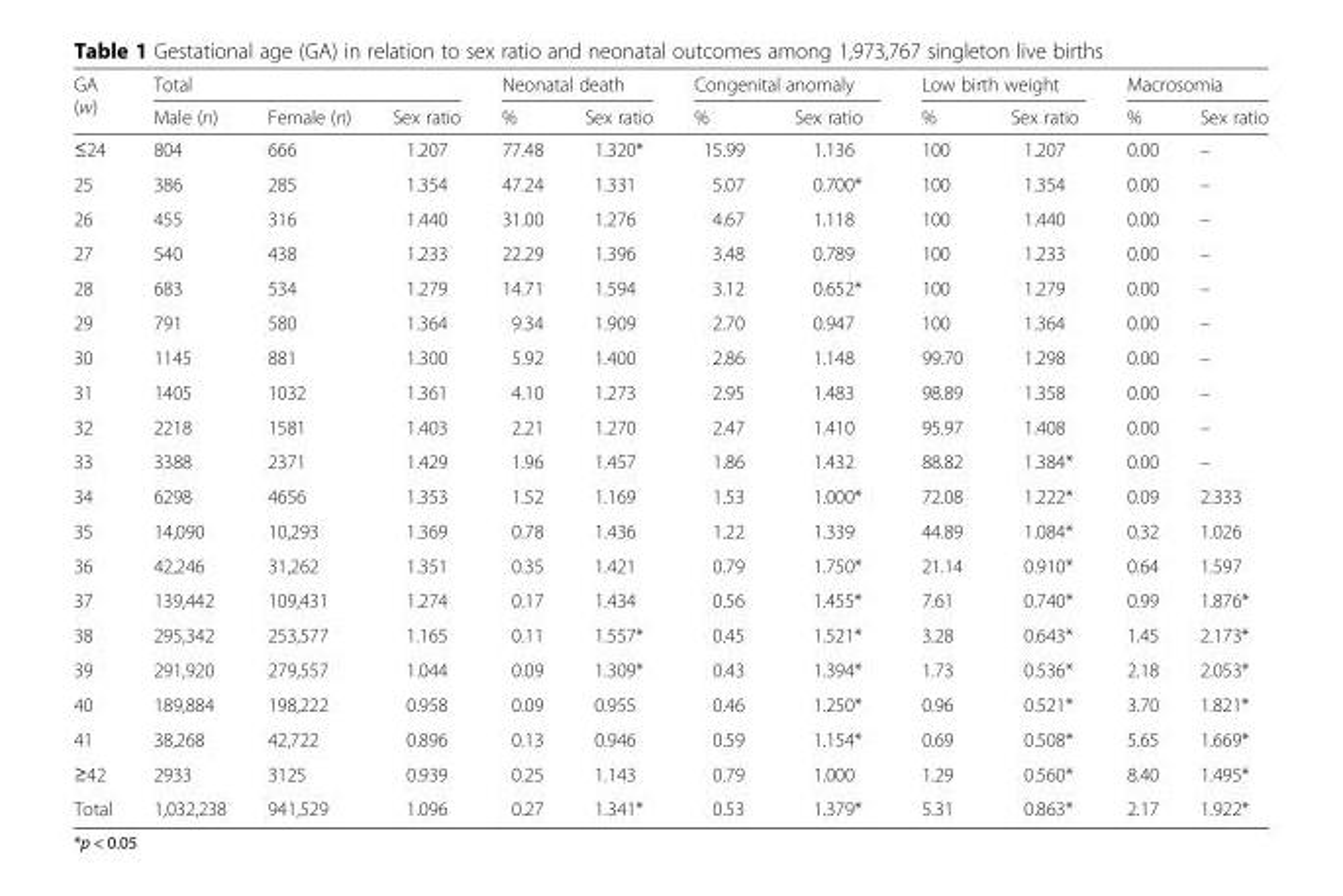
<table><thead><tr><td rowspan="2">GA (w)</td><td colspan="3">Total</td><td colspan="2">Neonatal death</td><td colspan="2">Congenital anomaly</td><td colspan="2">Low birth weight</td><td colspan="2">Macrosomia</td></tr><tr><td>Male (n)</td><td>Female (n)</td><td>Sex ratio</td><td>%</td><td>Sex ratio</td><td>%</td><td>Sex ratio</td><td>%</td><td>Sex ratio</td><td>%</td><td>Sex ratio</td></tr></thead><tbody><tr><td>≤24</td><td>804</td><td>666</td><td>1.207</td><td>77.48</td><td>1.320*</td><td>15.99</td><td>1.136</td><td>100</td><td>1.207</td><td>0.00</td><td>–</td></tr><tr><td>25</td><td>386</td><td>285</td><td>1.354</td><td>47.24</td><td>1.331</td><td>5.07</td><td>0.700*</td><td>100</td><td>1.354</td><td>0.00</td><td>–</td></tr><tr><td>26</td><td>455</td><td>316</td><td>1.440</td><td>31.00</td><td>1.276</td><td>4.67</td><td>1.118</td><td>100</td><td>1.440</td><td>0.00</td><td>–</td></tr><tr><td>27</td><td>540</td><td>438</td><td>1.233</td><td>22.29</td><td>1.396</td><td>3.48</td><td>0.789</td><td>100</td><td>1.233</td><td>0.00</td><td>–</td></tr><tr><td>28</td><td>683</td><td>534</td><td>1.279</td><td>14.71</td><td>1.594</td><td>3.12</td><td>0.652*</td><td>100</td><td>1.279</td><td>0.00</td><td>–</td></tr><tr><td>29</td><td>791</td><td>580</td><td>1.364</td><td>9.34</td><td>1.909</td><td>2.70</td><td>0.947</td><td>100</td><td>1.364</td><td>0.00</td><td>–</td></tr><tr><td>30</td><td>1145</td><td>881</td><td>1.300</td><td>5.92</td><td>1.400</td><td>2.86</td><td>1.148</td><td>99.70</td><td>1.298</td><td>0.00</td><td>–</td></tr><tr><td>31</td><td>1405</td><td>1032</td><td>1.361</td><td>4.10</td><td>1.273</td><td>2.95</td><td>1.483</td><td>98.89</td><td>1.358</td><td>0.00</td><td>–</td></tr><tr><td>32</td><td>2218</td><td>1581</td><td>1.403</td><td>2.21</td><td>1.270</td><td>2.47</td><td>1.410</td><td>95.97</td><td>1.408</td><td>0.00</td><td>–</td></tr><tr><td>33</td><td>3388</td><td>2371</td><td>1.429</td><td>1.96</td><td>1.457</td><td>1.86</td><td>1.432</td><td>88.82</td><td>1.384*</td><td>0.00</td><td>–</td></tr><tr><td>34</td><td>6298</td><td>4656</td><td>1.353</td><td>1.52</td><td>1.169</td><td>1.53</td><td>1.000*</td><td>72.08</td><td>1.222*</td><td>0.09</td><td>2.333</td></tr><tr><td>35</td><td>14,090</td><td>10,293</td><td>1.369</td><td>0.78</td><td>1.436</td><td>1.22</td><td>1.339</td><td>44.89</td><td>1.084*</td><td>0.32</td><td>1.026</td></tr><tr><td>36</td><td>42,246</td><td>31,262</td><td>1.351</td><td>0.35</td><td>1.421</td><td>0.79</td><td>1.750*</td><td>21.14</td><td>0.910*</td><td>0.64</td><td>1.597</td></tr><tr><td>37</td><td>139,442</td><td>109,431</td><td>1.274</td><td>0.17</td><td>1.434</td><td>0.56</td><td>1.455*</td><td>7.61</td><td>0.740*</td><td>0.99</td><td>1.876*</td></tr><tr><td>38</td><td>295,342</td><td>253,577</td><td>1.165</td><td>0.11</td><td>1.557*</td><td>0.45</td><td>1.521*</td><td>3.28</td><td>0.643*</td><td>1.45</td><td>2.173*</td></tr><tr><td>39</td><td>291,920</td><td>279,557</td><td>1.044</td><td>0.09</td><td>1.309*</td><td>0.43</td><td>1.394*</td><td>1.73</td><td>0.536*</td><td>2.18</td><td>2.053*</td></tr><tr><td>40</td><td>189,884</td><td>198,222</td><td>0.958</td><td>0.09</td><td>0.955</td><td>0.46</td><td>1.250*</td><td>0.96</td><td>0.521*</td><td>3.70</td><td>1.821*</td></tr><tr><td>41</td><td>38,268</td><td>42,722</td><td>0.896</td><td>0.13</td><td>0.946</td><td>0.59</td><td>1.154*</td><td>0.69</td><td>0.508*</td><td>5.65</td><td>1.669*</td></tr><tr><td>≥42</td><td>2933</td><td>3125</td><td>0.939</td><td>0.25</td><td>1.143</td><td>0.79</td><td>1.000</td><td>1.29</td><td>0.560*</td><td>8.40</td><td>1.495*</td></tr><tr><td>Total</td><td>1,032,238</td><td>941,529</td><td>1.096</td><td>0.27</td><td>1.341*</td><td>0.53</td><td>1.379*</td><td>5.31</td><td>0.863*</td><td>2.17</td><td>1.922*</td></tr></tbody></table>